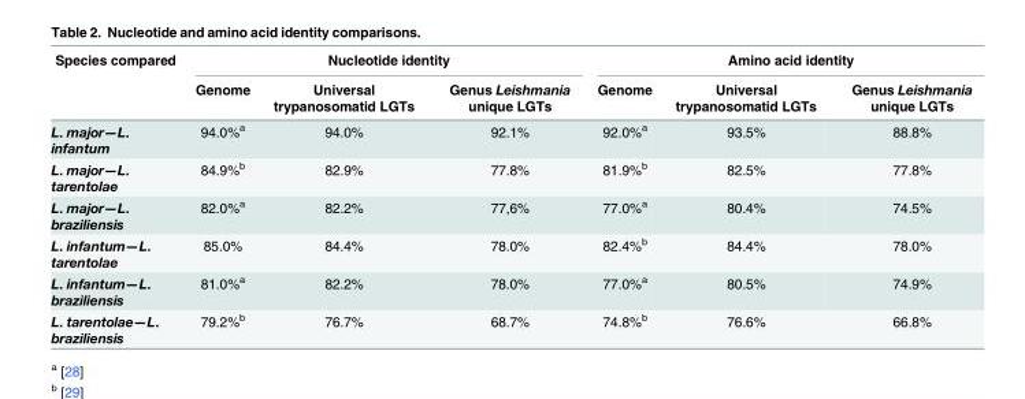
<table><thead><tr><td rowspan="2">Species compared</td><td colspan="3">Nucleotide identity</td><td colspan="3">Amino acid identity</td></tr><tr><td>Genome</td><td>Universal trypanosomatid LGTs</td><td>Genus Leishmania unique LGTs</td><td>Genome</td><td>Universal trypanosomatid LGTs</td><td>Genus Leishmania unique LGTs</td></tr></thead><tbody><tr><td>L. major—L. infantum</td><td>94.0%<sup>a</sup></td><td>94.0%</td><td>92.1%</td><td>92.0%<sup>a</sup></td><td>93.5%</td><td>88.8%</td></tr><tr><td>L. major—L. tarentolae</td><td>84.9%<sup>b</sup></td><td>82.9%</td><td>77.8%</td><td>81.9%<sup>b</sup></td><td>82.5%</td><td>77.8%</td></tr><tr><td>L. major—L. braziliensis</td><td>82.0%<sup>a</sup></td><td>82.2%</td><td>77,6%</td><td>77.0%<sup>a</sup></td><td>80.4%</td><td>74.5%</td></tr><tr><td>L. infantum—L. tarentolae</td><td>85.0%</td><td>84.4%</td><td>78.0%</td><td>82.4%<sup>b</sup></td><td>84.4%</td><td>78.0%</td></tr><tr><td>L. infantum—L. braziliensis</td><td>81.0%<sup>a</sup></td><td>82.2%</td><td>78.0%</td><td>77.0%<sup>a</sup></td><td>80.5%</td><td>74.9%</td></tr><tr><td>L. tarentolae—L. braziliensis</td><td>79.2%<sup>b</sup></td><td>76.7%</td><td>68.7%</td><td>74.8%<sup>b</sup></td><td>76.6%</td><td>66.8%</td></tr></tbody></table>